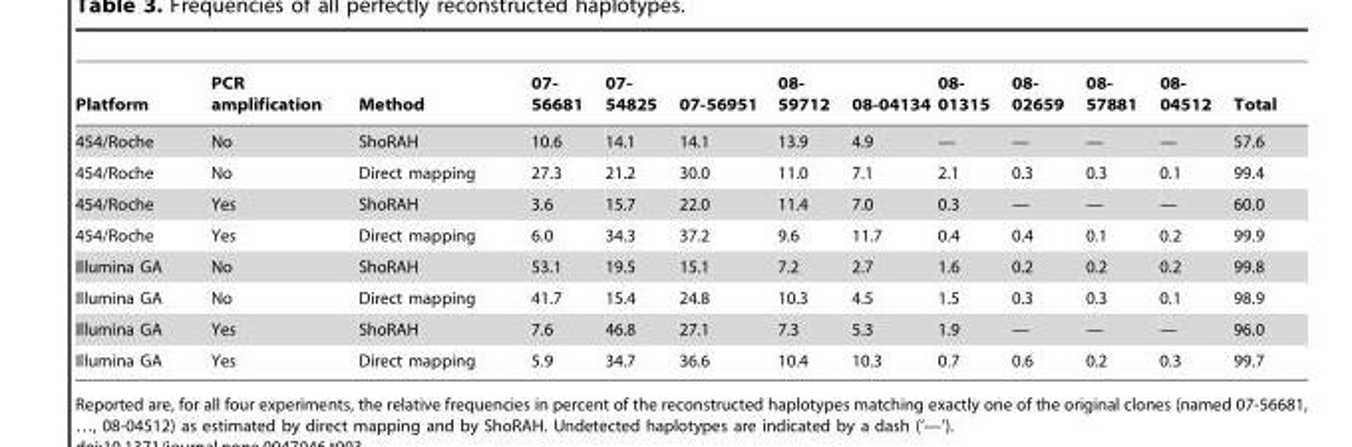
<table><thead><tr><td>Platform</td><td>PCR amplification</td><td>Method</td><td>07- 56681</td><td>07- 54825</td><td>07-56951</td><td>08- 59712</td><td>08-04134</td><td>08- 01315</td><td>08- 02659</td><td>08- 57881</td><td>08- 04512</td><td>Total</td></tr></thead><tbody><tr><td>454/Roche</td><td>No</td><td>ShoRAH</td><td>10.6</td><td>14.1</td><td>14.1</td><td>13.9</td><td>4.9</td><td>—</td><td>—</td><td>—</td><td>—</td><td>57.6</td></tr><tr><td>454/Roche</td><td>No</td><td>Direct mapping</td><td>27.3</td><td>21.2</td><td>30.0</td><td>11.0</td><td>7.1</td><td>2.1</td><td>0.3</td><td>0.3</td><td>0.1</td><td>99.4</td></tr><tr><td>454/Roche</td><td>Yes</td><td>ShoRAH</td><td>3.6</td><td>15.7</td><td>22.0</td><td>11.4</td><td>7.0</td><td>0.3</td><td>—</td><td>—</td><td>—</td><td>60.0</td></tr><tr><td>454/Roche</td><td>Yes</td><td>Direct mapping</td><td>6.0</td><td>34.3</td><td>37.2</td><td>9.6</td><td>11.7</td><td>0.4</td><td>0.4</td><td>0.1</td><td>0.2</td><td>99.9</td></tr><tr><td>Illumina GA</td><td>No</td><td>ShoRAH</td><td>53.1</td><td>19.5</td><td>15.1</td><td>7.2</td><td>2.7</td><td>1.6</td><td>0.2</td><td>0.2</td><td>0.2</td><td>99.8</td></tr><tr><td>Illumina GA</td><td>No</td><td>Direct mapping</td><td>41.7</td><td>15.4</td><td>24.8</td><td>10.3</td><td>4.5</td><td>1.5</td><td>0.3</td><td>0.3</td><td>0.1</td><td>98.9</td></tr><tr><td>Illumina GA</td><td>Yes</td><td>ShoRAH</td><td>7.6</td><td>46.8</td><td>27.1</td><td>7.3</td><td>5.3</td><td>1.9</td><td>—</td><td>—</td><td>—</td><td>96.0</td></tr><tr><td>Illumina GA</td><td>Yes</td><td>Direct mapping</td><td>5.9</td><td>34.7</td><td>36.6</td><td>10.4</td><td>10.3</td><td>0.7</td><td>0.6</td><td>0.2</td><td>0.3</td><td>99.7</td></tr></tbody></table>